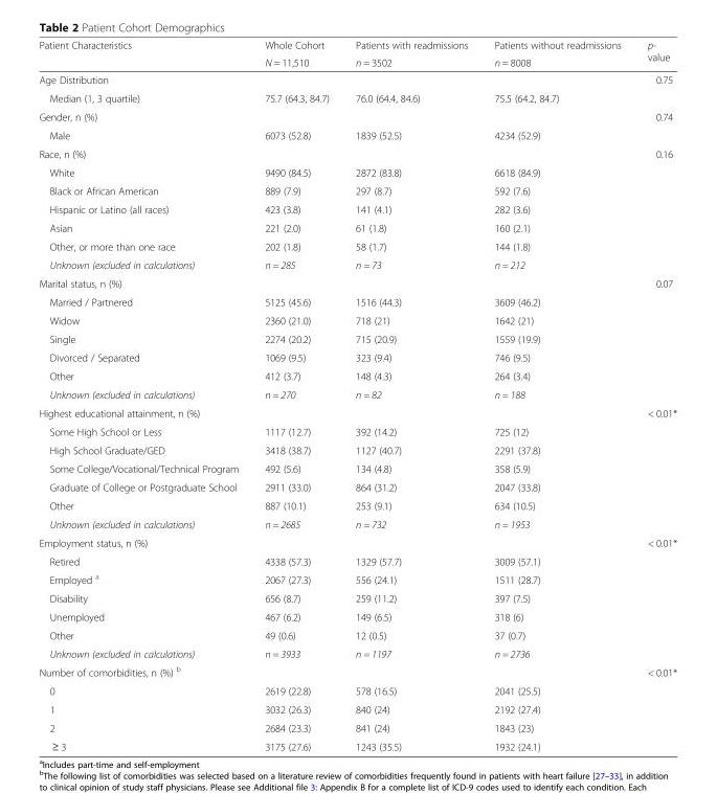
<table><thead><tr><td rowspan="2">Patient Characteristics</td><td rowspan="2">Whole Cohort N = 11,510</td><td rowspan="2">Patients with readmissions n = 3502</td><td rowspan="2">Patients without readmissions n = 8008</td><td rowspan="2">p- value</td></tr><tr></tr></thead><tbody><tr><td>Age Distribution</td><td></td><td></td><td></td><td>0.75</td></tr><tr><td>Median (1, 3 quartile)</td><td>75.7 (64.3, 84.7)</td><td>76.0 (64.4, 84.6)</td><td>75.5 (64.2, 84.7)</td><td></td></tr><tr><td>Gender, n (%)</td><td></td><td></td><td></td><td>0.74</td></tr><tr><td>Male</td><td>6073 (52.8)</td><td>1839 (52.5)</td><td>4234 (52.9)</td><td></td></tr><tr><td>Race, n (%)</td><td></td><td></td><td></td><td>0.16</td></tr><tr><td>White</td><td>9490 (84.5)</td><td>2872 (83.8)</td><td>6618 (84.9)</td><td></td></tr><tr><td>Black or African American</td><td>889 (7.9)</td><td>297 (8.7)</td><td>592 (7.6)</td><td></td></tr><tr><td>Hispanic or Latino (all races)</td><td>423 (3.8)</td><td>141 (4.1)</td><td>282 (3.6)</td><td></td></tr><tr><td>Asian</td><td>221 (2.0)</td><td>61 (1.8)</td><td>160 (2.1)</td><td></td></tr><tr><td>Other, or more than one race</td><td>202 (1.8)</td><td>58 (1.7)</td><td>144 (1.8)</td><td></td></tr><tr><td>Unknown (excluded in calculations)</td><td>n = 285</td><td>n = 73</td><td>n = 212</td><td></td></tr><tr><td>Marital status, n (%)</td><td></td><td></td><td></td><td>0.07</td></tr><tr><td>Married / Partnered</td><td>5125 (45.6)</td><td>1516 (44.3)</td><td>3609 (46.2)</td><td></td></tr><tr><td>Widow</td><td>2360 (21.0)</td><td>718 (21)</td><td>1642 (21)</td><td></td></tr><tr><td>Single</td><td>2274 (20.2)</td><td>715 (20.9)</td><td>1559 (19.9)</td><td></td></tr><tr><td>Divorced / Separated</td><td>1069 (9.5)</td><td>323 (9.4)</td><td>746 (9.5)</td><td></td></tr><tr><td>Other</td><td>412 (3.7)</td><td>148 (4.3)</td><td>264 (3.4)</td><td></td></tr><tr><td>Unknown (excluded in calculations)</td><td>n = 270</td><td>n = 82</td><td>n = 188</td><td></td></tr><tr><td>Highest educational attainment, n (%)</td><td></td><td></td><td></td><td>&lt; 0.01*</td></tr><tr><td>Some High School or Less</td><td>1117 (12.7)</td><td>392 (14.2)</td><td>725 (12)</td><td></td></tr><tr><td>High School Graduate/GED</td><td>3418 (38.7)</td><td>1127 (40.7)</td><td>2291 (37.8)</td><td></td></tr><tr><td>Some College/Vocational/Technical Program</td><td>492 (5.6)</td><td>134 (4.8)</td><td>358 (5.9)</td><td></td></tr><tr><td>Graduate of College or Postgraduate School</td><td>2911 (33.0)</td><td>864 (31.2)</td><td>2047 (33.8)</td><td></td></tr><tr><td>Other</td><td>887 (10.1)</td><td>253 (9.1)</td><td>634 (10.5)</td><td></td></tr><tr><td>Unknown (excluded in calculations)</td><td>n = 2685</td><td>n = 732</td><td>n = 1953</td><td></td></tr><tr><td>Employment status, n (%)</td><td></td><td></td><td></td><td>&lt; 0.01*</td></tr><tr><td>Retired</td><td>4338 (57.3)</td><td>1329 (57.7)</td><td>3009 (57.1)</td><td></td></tr><tr><td>Employed <sup>a</sup></td><td>2067 (27.3)</td><td>556 (24.1)</td><td>1511 (28.7)</td><td></td></tr><tr><td>Disability</td><td>656 (8.7)</td><td>259 (11.2)</td><td>397 (7.5)</td><td></td></tr><tr><td>Unemployed</td><td>467 (6.2)</td><td>149 (6.5)</td><td>318 (6)</td><td></td></tr><tr><td>Other</td><td>49 (0.6)</td><td>12 (0.5)</td><td>37 (0.7)</td><td></td></tr><tr><td>Unknown (excluded in calculations)</td><td>n = 3933</td><td>n = 1197</td><td>n = 2736</td><td></td></tr><tr><td>Number of comorbidities, n (%) <sup>b</sup></td><td></td><td></td><td></td><td>&lt; 0.01*</td></tr><tr><td>0</td><td>2619 (22.8)</td><td>578 (16.5)</td><td>2041 (25.5)</td><td></td></tr><tr><td>1</td><td>3032 (26.3)</td><td>840 (24)</td><td>2192 (27.4)</td><td></td></tr><tr><td>2</td><td>2684 (23.3)</td><td>841 (24)</td><td>1843 (23)</td><td></td></tr><tr><td>≥ 3</td><td>3175 (27.6)</td><td>1243 (35.5)</td><td>1932 (24.1)</td><td></td></tr></tbody></table>